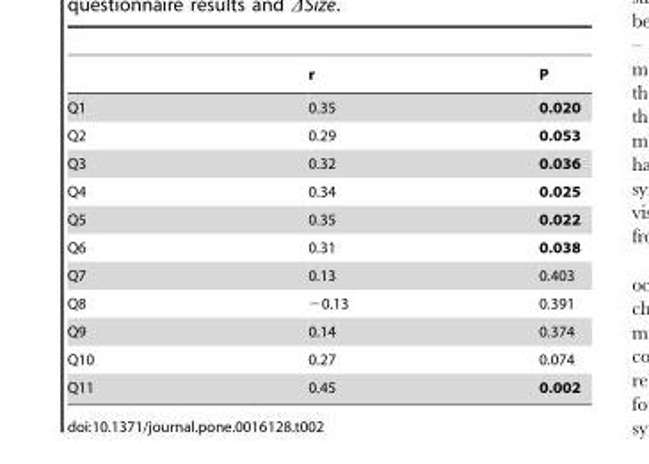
<table><thead><tr><td></td><td>r</td><td>P</td></tr></thead><tbody><tr><td>Q1</td><td>0.35</td><td>0.020</td></tr><tr><td>Q2</td><td>0.29</td><td>0.053</td></tr><tr><td>Q3</td><td>0.32</td><td>0.036</td></tr><tr><td>Q4</td><td>0.34</td><td>0.025</td></tr><tr><td>Q5</td><td>0.35</td><td>0.022</td></tr><tr><td>Q6</td><td>0.31</td><td>0.038</td></tr><tr><td>Q7</td><td>0.13</td><td>0.403</td></tr><tr><td>Q8</td><td>−0.13</td><td>0.391</td></tr><tr><td>Q9</td><td>0.14</td><td>0.374</td></tr><tr><td>Q10</td><td>0.27</td><td>0.074</td></tr><tr><td>Q11</td><td>0.45</td><td>0.002</td></tr></tbody></table>